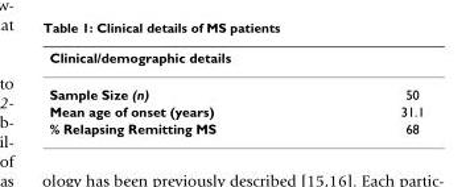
<table><thead><tr><td>Clinical/demographic details</td><td></td></tr></thead><tbody><tr><td>Sample Size (n)</td><td>50</td></tr><tr><td>Mean age of onset (years)</td><td>31.1</td></tr><tr><td>% Relapsing Remitting MS</td><td>68</td></tr></tbody></table>